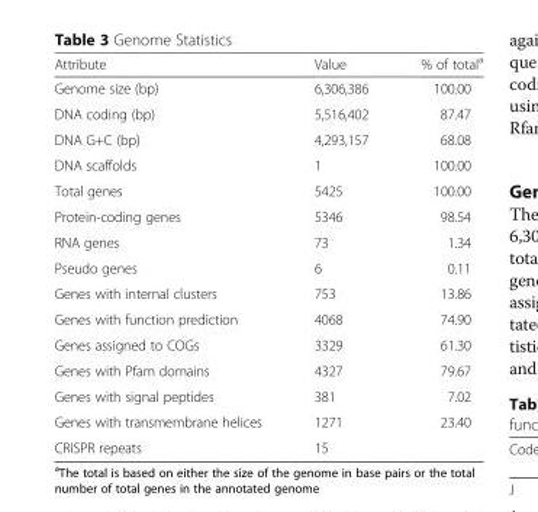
<table><thead><tr><td>Attribute</td><td>Value</td><td>% of total<sup>a</sup></td></tr></thead><tbody><tr><td>Genome size (bp)</td><td>6,306,386</td><td>100.00</td></tr><tr><td>DNA coding (bp)</td><td>5,516,402</td><td>87.47</td></tr><tr><td>DNA G+C (bp)</td><td>4,293,157</td><td>68.08</td></tr><tr><td>DNA scaffolds</td><td>1</td><td>100.00</td></tr><tr><td>Total genes</td><td>5425</td><td>100.00</td></tr><tr><td>Protein-coding genes</td><td>5346</td><td>98.54</td></tr><tr><td>RNA genes</td><td>73</td><td>1.34</td></tr><tr><td>Pseudo genes</td><td>6</td><td>0.11</td></tr><tr><td>Genes with internal clusters</td><td>753</td><td>13.86</td></tr><tr><td>Genes with function prediction</td><td>4068</td><td>74.90</td></tr><tr><td>Genes assigned to COGs</td><td>3329</td><td>61.30</td></tr><tr><td>Genes with Pfam domains</td><td>4327</td><td>79.67</td></tr><tr><td>Genes with signal peptides</td><td>381</td><td>7.02</td></tr><tr><td>Genes with transmembrane helices</td><td>1271</td><td>23.40</td></tr><tr><td>CRISPR repeats</td><td>15</td><td></td></tr></tbody></table>